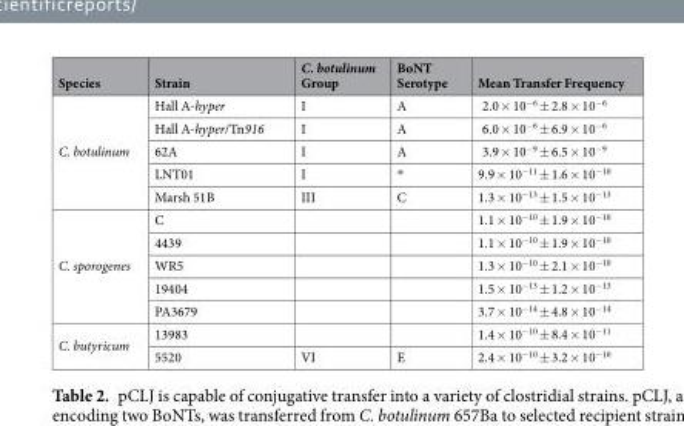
<table><thead><tr><td>Species</td><td>Strain</td><td>C. botulinum Group</td><td>BoNT Serotype</td><td>Mean Transfer Frequency</td></tr></thead><tbody><tr><td rowspan="5">C. botulinum</td><td>Hall A-hyper</td><td>I</td><td>A</td><td>2.0 × 10<sup>−6</sup> ± 2.8 × 10<sup>−6</sup></td></tr><tr><td>Hall A-hyper/Tn916</td><td>I</td><td>A</td><td>6.0 × 10<sup>−6</sup> ± 6.9 × 10<sup>−6</sup></td></tr><tr><td>62A</td><td>I</td><td>A</td><td>3.9 × 10<sup>−9</sup> ± 6.5 × 10<sup>−9</sup></td></tr><tr><td>LNT01</td><td>I</td><td>*</td><td>9.9 × 10<sup>−11</sup> ± 1.6 × 10<sup>−10</sup></td></tr><tr><td>Marsh 51B</td><td>III</td><td>C</td><td>1.3 × 10<sup>−13</sup> ± 1.5 × 10<sup>−13</sup></td></tr><tr><td rowspan="5">C. sporogenes</td><td>C</td><td></td><td></td><td>1.1 × 10<sup>−10</sup> ± 1.9 × 10<sup>−10</sup></td></tr><tr><td>4439</td><td></td><td></td><td>1.1 × 10<sup>−10</sup> ± 1.9 × 10<sup>−10</sup></td></tr><tr><td>WR5</td><td></td><td></td><td>1.3 × 10<sup>−10</sup> ± 2.1 × 10<sup>−10</sup></td></tr><tr><td>19404</td><td></td><td></td><td>1.5 × 10<sup>−13</sup> ± 1.2 × 10<sup>−13</sup></td></tr><tr><td>PA3679</td><td></td><td></td><td>3.7 × 10<sup>−14</sup> ± 4.8 × 10<sup>−14</sup></td></tr><tr><td rowspan="2">C. butyricum</td><td>13983</td><td></td><td></td><td>1.4 × 10<sup>−10</sup> ± 8.4 × 10<sup>−11</sup></td></tr><tr><td>5520</td><td>VI</td><td>E</td><td>2.4 × 10<sup>−10</sup> ± 3.2 × 10<sup>−10</sup></td></tr></tbody></table>